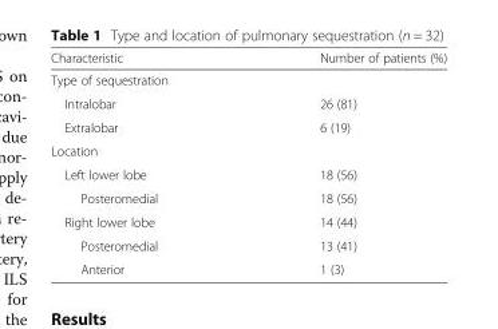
<table><thead><tr><td>Characteristic</td><td>Number of patients (%)</td></tr></thead><tbody><tr><td colspan="2">Type of sequestration</td></tr><tr><td>Intralobar</td><td>26 (81)</td></tr><tr><td>Extralobar</td><td>6 (19)</td></tr><tr><td colspan="2">Location</td></tr><tr><td>Left lower lobe</td><td>18 (56)</td></tr><tr><td>Posteromedial</td><td>18 (56)</td></tr><tr><td>Right lower lobe</td><td>14 (44)</td></tr><tr><td>Posteromedial</td><td>13 (41)</td></tr><tr><td>Anterior</td><td>1 (3)</td></tr></tbody></table>